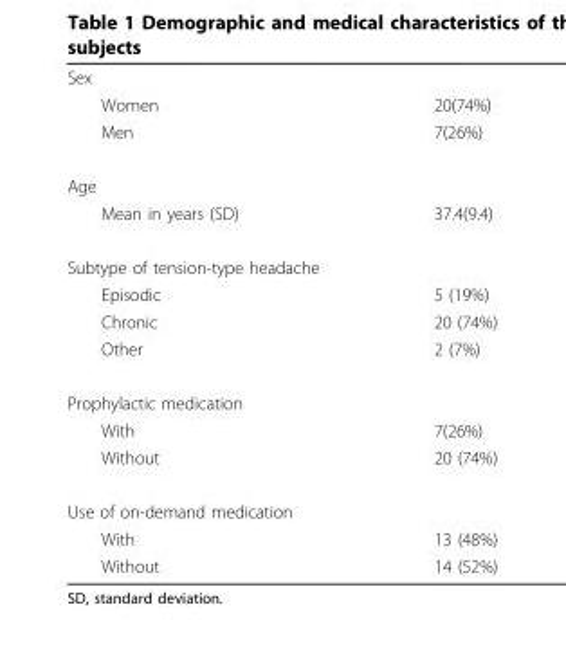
<table><tbody><tr><td colspan="2">Sex</td></tr><tr><td>Women</td><td>20(74%)</td></tr><tr><td>Men</td><td>7(26%)</td></tr><tr><td colspan="2">Age</td></tr><tr><td>Mean in years (SD)</td><td>37.4(9.4)</td></tr><tr><td colspan="2">Subtype of tension-type headache</td></tr><tr><td>Episodic</td><td>5 (19%)</td></tr><tr><td>Chronic</td><td>20 (74%)</td></tr><tr><td>Other</td><td>2 (7%)</td></tr><tr><td colspan="2">Prophylactic medication</td></tr><tr><td>With</td><td>7(26%)</td></tr><tr><td>Without</td><td>20 (74%)</td></tr><tr><td colspan="2">Use of on-demand medication</td></tr><tr><td>With</td><td>13 (48%)</td></tr><tr><td>Without</td><td>14 (52%)</td></tr></tbody></table>